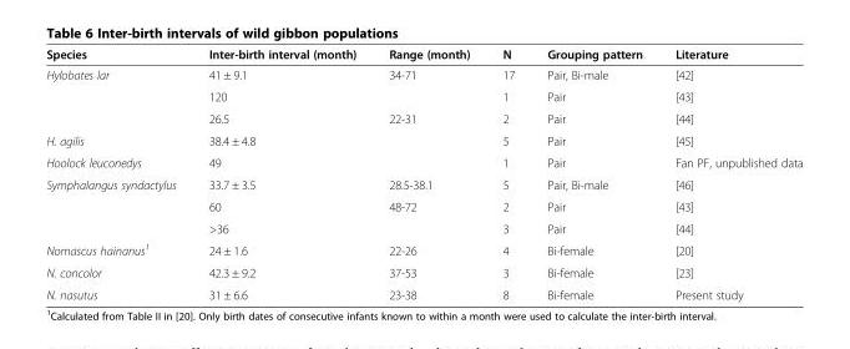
<table><thead><tr><td>Species</td><td>Inter-birth interval (month)</td><td>Range (month)</td><td>N</td><td>Grouping pattern</td><td>Literature</td></tr></thead><tbody><tr><td rowspan="3">Hylobates lar</td><td>41 ± 9.1</td><td>34-71</td><td>17</td><td>Pair, Bi-male</td><td>[42]</td></tr><tr><td>120</td><td></td><td>1</td><td>Pair</td><td>[43]</td></tr><tr><td>26.5</td><td>22-31</td><td>2</td><td>Pair</td><td>[44]</td></tr><tr><td>H. agilis</td><td>38.4 ± 4.8</td><td></td><td>5</td><td>Pair</td><td>[45]</td></tr><tr><td>Hoolock leuconedys</td><td>49</td><td></td><td>1</td><td>Pair</td><td>Fan PF, unpublished data</td></tr><tr><td rowspan="3">Symphalangus syndactylus</td><td>33.7 ± 3.5</td><td>28.5-38.1</td><td>5</td><td>Pair, Bi-male</td><td>[46]</td></tr><tr><td>60</td><td>48-72</td><td>2</td><td>Pair</td><td>[43]</td></tr><tr><td>&gt;36</td><td></td><td>3</td><td>Pair</td><td>[44]</td></tr><tr><td>Nomascus hainanus<sup>1</sup></td><td>24 ± 1.6</td><td>22-26</td><td>4</td><td>Bi-female</td><td>[20]</td></tr><tr><td>N. concolor</td><td>42.3 ± 9.2</td><td>37-53</td><td>3</td><td>Bi-female</td><td>[23]</td></tr><tr><td>N. nasutus</td><td>31 ± 6.6</td><td>23-38</td><td>8</td><td>Bi-female</td><td>Present study</td></tr></tbody></table>